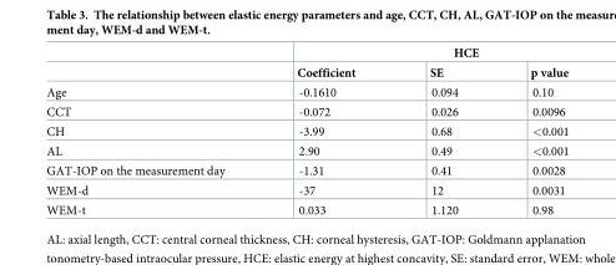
<table><thead><tr><td rowspan="2"></td><td colspan="3">HCE</td></tr><tr><td>Coefficient</td><td>SE</td><td>p value</td></tr></thead><tbody><tr><td>Age</td><td>-0.1610</td><td>0.094</td><td>0.10</td></tr><tr><td>CCT</td><td>-0.072</td><td>0.026</td><td>0.0096</td></tr><tr><td>CH</td><td>-3.99</td><td>0.68</td><td>&lt;0.001</td></tr><tr><td>AL</td><td>2.90</td><td>0.49</td><td>&lt;0.001</td></tr><tr><td>GAT-IOP on the measurement day</td><td>-1.31</td><td>0.41</td><td>0.0028</td></tr><tr><td>WEM-d</td><td>-37</td><td>12</td><td>0.0031</td></tr><tr><td>WEM-t</td><td>0.033</td><td>1.120</td><td>0.98</td></tr></tbody></table>